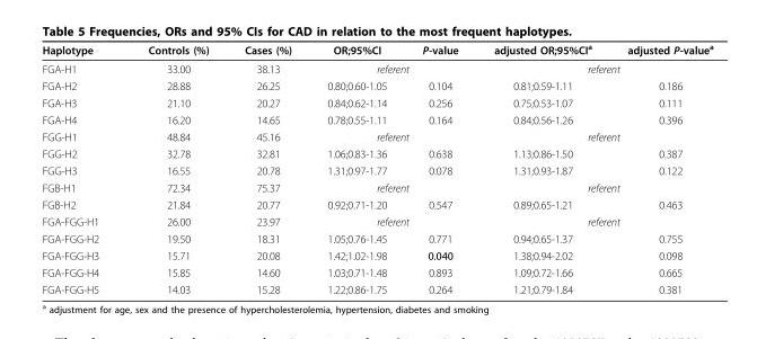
<table><thead><tr><td>Haplotype</td><td>Controls (%)</td><td>Cases (%)</td><td>OR;95%CI</td><td>P-value</td><td>adjusted OR;95%CI<sup>a</sup></td><td>adjusted P-value<sup>a</sup></td></tr></thead><tbody><tr><td>FGA-H1</td><td>33.00</td><td>38.13</td><td colspan="2">referent</td><td colspan="2">referent</td></tr><tr><td>FGA-H2</td><td>28.88</td><td>26.25</td><td>0.80;0.60-1.05</td><td>0.104</td><td>0.81;0.59-1.11</td><td>0.186</td></tr><tr><td>FGA-H3</td><td>21.10</td><td>20.27</td><td>0.84;0.62-1.14</td><td>0.256</td><td>0.75;0.53-1.07</td><td>0.111</td></tr><tr><td>FGA-H4</td><td>16.20</td><td>14.65</td><td>0.78;0.55-1.11</td><td>0.164</td><td>0.84;0.56-1.26</td><td>0.396</td></tr><tr><td>FGG-H1</td><td>48.84</td><td>45.16</td><td colspan="2">referent</td><td colspan="2">referent</td></tr><tr><td>FGG-H2</td><td>32.78</td><td>32.81</td><td>1.06;0.83-1.36</td><td>0.638</td><td>1.13;0.86-1.50</td><td>0.387</td></tr><tr><td>FGG-H3</td><td>16.55</td><td>20.78</td><td>1.31;0.97-1.77</td><td>0.078</td><td>1.31;0.93-1.87</td><td>0.122</td></tr><tr><td>FGB-H1</td><td>72.34</td><td>75.37</td><td colspan="2">referent</td><td colspan="2">referent</td></tr><tr><td>FGB-H2</td><td>21.84</td><td>20.77</td><td>0.92;0.71-1.20</td><td>0.547</td><td>0.89;0.65-1.21</td><td>0.463</td></tr><tr><td>FGA-FGG-H1</td><td>26.00</td><td>23.97</td><td colspan="2">referent</td><td colspan="2">referent</td></tr><tr><td>FGA-FGG-H2</td><td>19.50</td><td>18.31</td><td>1.05;0.76-1.45</td><td>0.771</td><td>0.94;0.65-1.37</td><td>0.755</td></tr><tr><td>FGA-FGG-H3</td><td>15.71</td><td>20.08</td><td>1.42;1.02-1.98</td><td>0.040</td><td>1.38;0.94-2.02</td><td>0.098</td></tr><tr><td>FGA-FGG-H4</td><td>15.85</td><td>14.60</td><td>1.03;0.71-1.48</td><td>0.893</td><td>1.09;0.72-1.66</td><td>0.665</td></tr><tr><td>FGA-FGG-H5</td><td>14.03</td><td>15.28</td><td>1.22;0.86-1.75</td><td>0.264</td><td>1.21;0.79-1.84</td><td>0.381</td></tr></tbody></table>